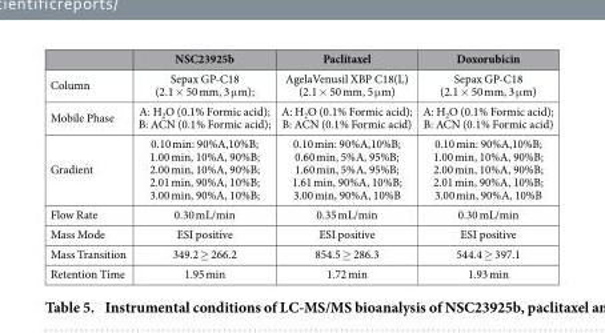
<table><thead><tr><td></td><td>NSC23925b</td><td>Paclitaxel</td><td>Doxorubicin</td></tr></thead><tbody><tr><td>Column</td><td>Sepax GP-C18 (2.1 × 50 mm, 3 μ m);</td><td>AgelaVenusil XBP C18(L) (2.1 × 50 mm, 5 μ m)</td><td>Sepax GP-C18 (2.1 × 50 mm, 3 μ m)</td></tr><tr><td>Mobile Phase</td><td>A: H<sub>2</sub>O (0.1% Formic acid); B: ACN (0.1% Formic acid);</td><td>A: H<sub>2</sub>O (0.1% Formic acid); B: ACN (0.1% Formic acid)</td><td>A: H<sub>2</sub>O (0.1% Formic acid); B: ACN (0.1% Formic acid)</td></tr><tr><td>Gradient</td><td>0.10 min: 90%A,10%B; 1.00 min, 10%A, 90%B; 2.00 min, 10%A, 90%B; 2.01 min, 90%A, 10%B; 3.00 min, 90%A, 10%B;</td><td>0.10 min: 90%A,10%B; 0.60 min, 5%A, 95%B; 1.60 min, 5%A, 95%B; 1.61 min, 90%A, 10%B; 3.00 min, 90%A, 10%B</td><td>0.10 min: 90%A,10%B; 1.00 min, 10%A, 90%B; 2.00 min, 10%A, 90%B; 2.01 min, 90%A, 10%B; 3.00 min, 90%A, 10%B</td></tr><tr><td>Flow Rate</td><td>0.30 mL/min</td><td>0.35 mL/min</td><td>0.30 mL/min</td></tr><tr><td>Mass Mode</td><td>ESI positive</td><td>ESI positive</td><td>ESI positive</td></tr><tr><td>Mass Transition</td><td>349.2 ≥ 266.2</td><td>854.5 ≥ 286.3</td><td>544.4 ≥ 397.1</td></tr><tr><td>Retention Time</td><td>1.95 min</td><td>1.72 min</td><td>1.93 min</td></tr></tbody></table>